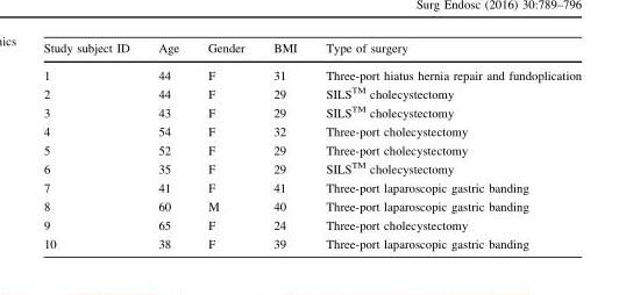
<table><thead><tr><td>Study subject ID</td><td>Age</td><td>Gender</td><td>BMI</td><td>Type of surgery</td></tr></thead><tbody><tr><td>1</td><td>44</td><td>F</td><td>31</td><td>Three-port hiatus hernia repair and fundoplication</td></tr><tr><td>2</td><td>44</td><td>F</td><td>29</td><td>SILSTM cholecystectomy</td></tr><tr><td>3</td><td>43</td><td>F</td><td>29</td><td>SILSTM cholecystectomy</td></tr><tr><td>4</td><td>54</td><td>F</td><td>32</td><td>Three-port cholecystectomy</td></tr><tr><td>5</td><td>52</td><td>F</td><td>29</td><td>Three-port cholecystectomy</td></tr><tr><td>6</td><td>35</td><td>F</td><td>29</td><td>SILSTM cholecystectomy</td></tr><tr><td>7</td><td>41</td><td>F</td><td>41</td><td>Three-port laparoscopic gastric banding</td></tr><tr><td>8</td><td>60</td><td>M</td><td>40</td><td>Three-port laparoscopic gastric banding</td></tr><tr><td>9</td><td>65</td><td>F</td><td>24</td><td>Three-port cholecystectomy</td></tr><tr><td>10</td><td>38</td><td>F</td><td>39</td><td>Three-port laparoscopic gastric banding</td></tr></tbody></table>